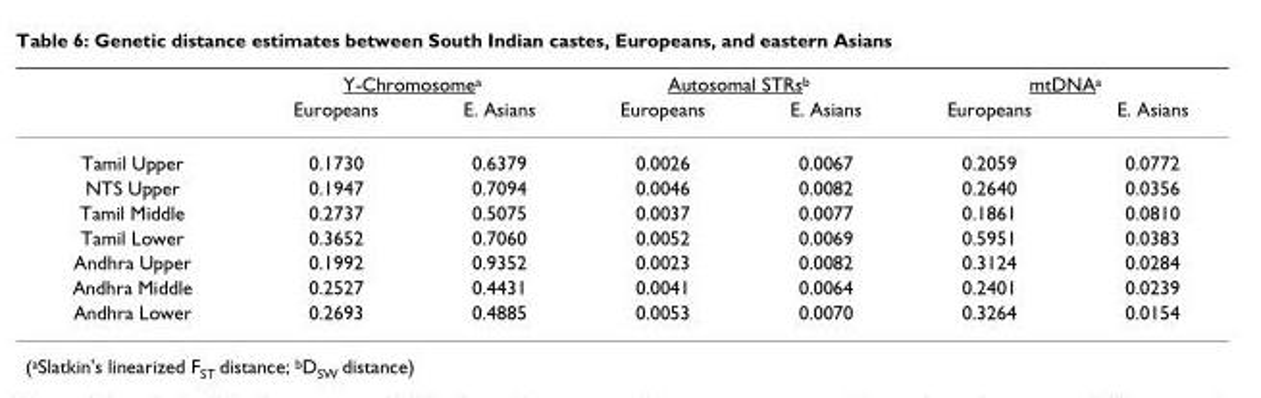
<table><thead><tr><td rowspan="2"></td><td colspan="2">Y-Chromosome<sup>a</sup></td><td colspan="2">Autosomal STRs<sup>b</sup></td><td colspan="2">mtDNA<sup>a</sup></td></tr><tr><td>Europeans</td><td>E. Asians</td><td>Europeans</td><td>E. Asians</td><td>Europeans</td><td>E. Asians</td></tr></thead><tbody><tr><td>Tamil Upper</td><td>0.1730</td><td>0.6379</td><td>0.0026</td><td>0.0067</td><td>0.2059</td><td>0.0772</td></tr><tr><td>NTS Upper</td><td>0.1947</td><td>0.7094</td><td>0.0046</td><td>0.0082</td><td>0.2640</td><td>0.0356</td></tr><tr><td>Tamil Middle</td><td>0.2737</td><td>0.5075</td><td>0.0037</td><td>0.0077</td><td>0.1861</td><td>0.0810</td></tr><tr><td>Tamil Lower</td><td>0.3652</td><td>0.7060</td><td>0.0052</td><td>0.0069</td><td>0.5951</td><td>0.0383</td></tr><tr><td>Andhra Upper</td><td>0.1992</td><td>0.9352</td><td>0.0023</td><td>0.0082</td><td>0.3124</td><td>0.0284</td></tr><tr><td>Andhra Middle</td><td>0.2527</td><td>0.4431</td><td>0.0041</td><td>0.0064</td><td>0.2401</td><td>0.0239</td></tr><tr><td>Andhra Lower</td><td>0.2693</td><td>0.4885</td><td>0.0053</td><td>0.0070</td><td>0.3264</td><td>0.0154</td></tr></tbody></table>